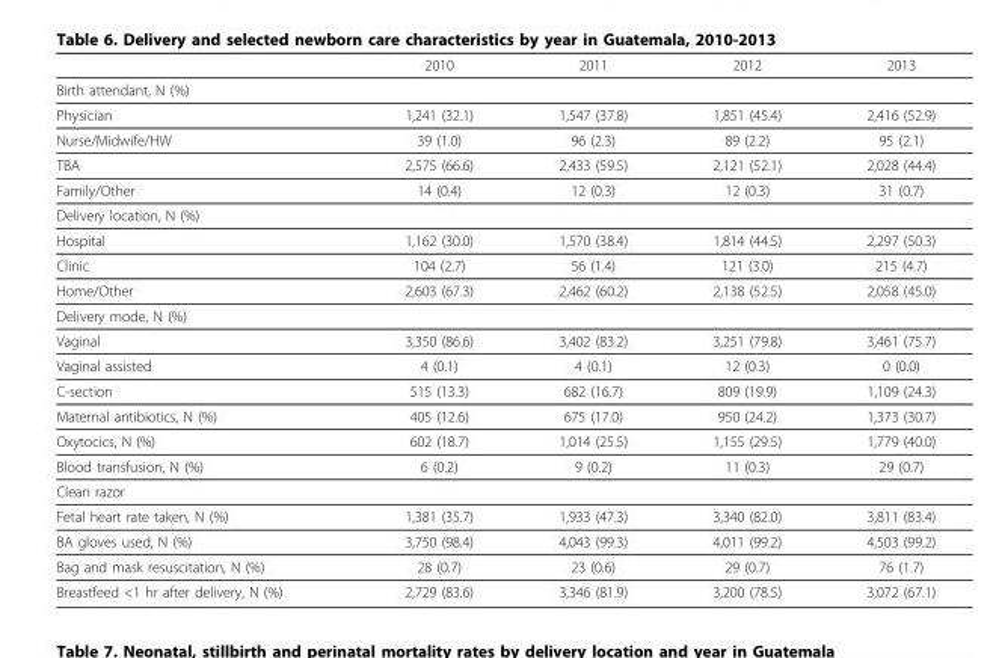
<table><thead><tr><td></td><td>2010</td><td>2011</td><td>2012</td><td>2013</td></tr></thead><tbody><tr><td colspan="5">Birth attendant, N (%)</td></tr><tr><td>Physician</td><td>1,241 (32.1)</td><td>1,547 (37.8)</td><td>1,851 (45.4)</td><td>2,416 (52.9)</td></tr><tr><td>Nurse/Midwife/HW</td><td>39 (1.0)</td><td>96 (2.3)</td><td>89 (2.2)</td><td>95 (2.1)</td></tr><tr><td>TBA</td><td>2,575 (66.6)</td><td>2,433 (59.5)</td><td>2,121 (52.1)</td><td>2,028 (44.4)</td></tr><tr><td>Family/Other</td><td>14 (0.4)</td><td>12 (0.3)</td><td>12 (0.3)</td><td>31 (0.7)</td></tr><tr><td colspan="5">Delivery location, N (%)</td></tr><tr><td>Hospital</td><td>1,162 (30.0)</td><td>1,570 (38.4)</td><td>1,814 (44.5)</td><td>2,297 (50.3)</td></tr><tr><td>Clinic</td><td>104 (2.7)</td><td>56 (1.4)</td><td>121 (3.0)</td><td>215 (4.7)</td></tr><tr><td>Home/Other</td><td>2,603 (67.3)</td><td>2,462 (60.2)</td><td>2,138 (52.5)</td><td>2,058 (45.0)</td></tr><tr><td colspan="5">Delivery mode, N (%)</td></tr><tr><td>Vaginal</td><td>3,350 (86.6)</td><td>3,402 (83.2)</td><td>3,251 (79.8)</td><td>3,461 (75.7)</td></tr><tr><td>Vaginal assisted</td><td>4 (0.1)</td><td>4 (0.1)</td><td>12 (0.3)</td><td>0 (0.0)</td></tr><tr><td>C-section</td><td>515 (13.3)</td><td>682 (16.7)</td><td>809 (19.9)</td><td>1,109 (24.3)</td></tr><tr><td>Maternal antibiotics, N (%)</td><td>405 (12.6)</td><td>675 (17.0)</td><td>950 (24.2)</td><td>1,373 (30.7)</td></tr><tr><td>Oxytocics, N (%)</td><td>602 (18.7)</td><td>1,014 (25.5)</td><td>1,155 (29.5)</td><td>1,779 (40.0)</td></tr><tr><td>Blood transfusion, N (%)</td><td>6 (0.2)</td><td>9 (0.2)</td><td>11 (0.3)</td><td>29 (0.7)</td></tr><tr><td colspan="5">Clean razor</td></tr><tr><td>Fetal heart rate taken, N (%)</td><td>1,381 (35.7)</td><td>1,933 (47.3)</td><td>3,340 (82.0)</td><td>3,811 (83.4)</td></tr><tr><td>BA gloves used, N (%)</td><td>3,750 (98.4)</td><td>4,043 (99.3)</td><td>4,011 (99.2)</td><td>4,503 (99.2)</td></tr><tr><td>Bag and mask resuscitation, N (%)</td><td>28 (0.7)</td><td>23 (0.6)</td><td>29 (0.7)</td><td>76 (1.7)</td></tr><tr><td>Breastfeed &lt;1 hr after delivery, N (%)</td><td>2,729 (83.6)</td><td>3,346 (81.9)</td><td>3,200 (78.5)</td><td>3,072 (67.1)</td></tr></tbody></table>